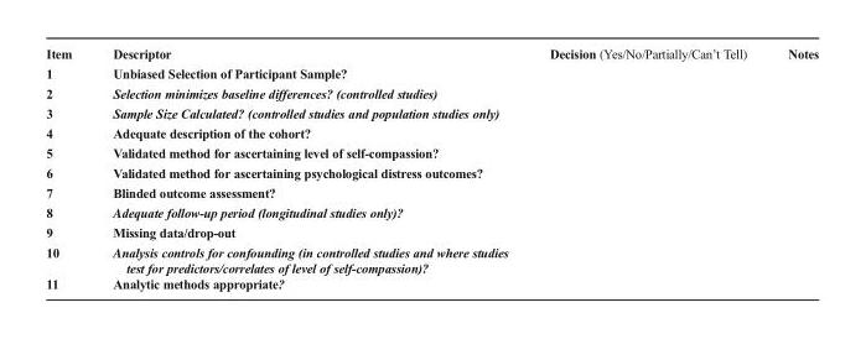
<table><tbody><tr><td>Item</td><td>Descriptor</td><td>Decision (Yes/No/Partially/Can’t Tell)</td><td>Notes</td></tr><tr><td>1</td><td>Unbiased Selection of Participant Sample?</td><td></td><td></td></tr><tr><td>2</td><td>Selection minimizes baseline differences? (controlled studies)</td><td></td><td></td></tr><tr><td>3</td><td>Sample Size Calculated? (controlled studies and population studies only)</td><td></td><td></td></tr><tr><td>4</td><td>Adequate description of the cohort?</td><td></td><td></td></tr><tr><td>5</td><td>Validated method for ascertaining level of self-compassion?</td><td></td><td></td></tr><tr><td>6</td><td>Validated method for ascertaining psychological distress outcomes?</td><td></td><td></td></tr><tr><td>7</td><td>Blinded outcome assessment?</td><td></td><td></td></tr><tr><td>8</td><td>Adequate follow-up period (longitudinal studies only)?</td><td></td><td></td></tr><tr><td>9</td><td>Missing data/drop-out</td><td></td><td></td></tr><tr><td>10</td><td>Analysis controls for confounding (in controlled studies and where studies test for predictors/correlates of level of self-compassion)?</td><td></td><td></td></tr><tr><td>11</td><td>Analytic methods appropriate?</td><td></td><td></td></tr></tbody></table>